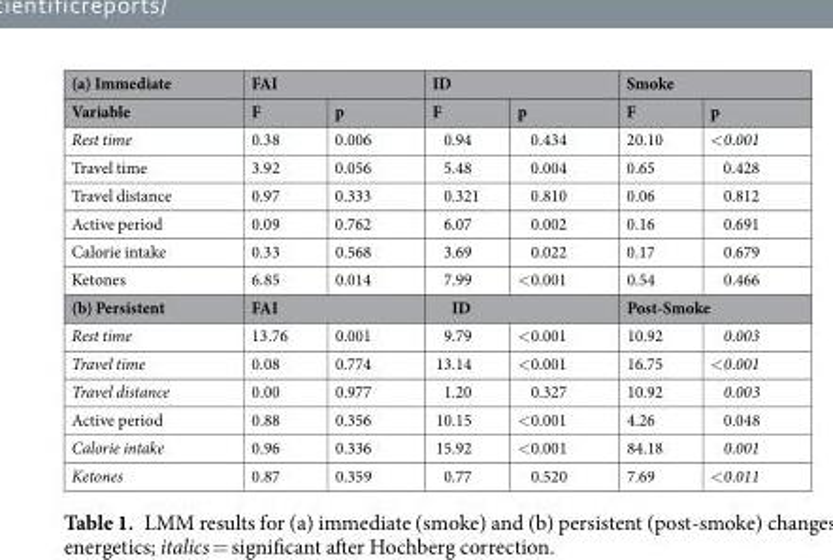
<table><thead><tr><td rowspan="2">(a) Immediate Variable</td><td colspan="2">FAI</td><td colspan="2">ID</td><td colspan="2">Smoke</td></tr><tr><td>F</td><td>p</td><td>F</td><td>p</td><td>F</td><td>p</td></tr></thead><tbody><tr><td>Rest time</td><td>0.38</td><td>0.006</td><td>0.94</td><td>0.434</td><td>20.10</td><td>&lt;0.001</td></tr><tr><td>Travel time</td><td>3.92</td><td>0.056</td><td>5.48</td><td>0.004</td><td>0.65</td><td>0.428</td></tr><tr><td>Travel distance</td><td>0.97</td><td>0.333</td><td>0.321</td><td>0.810</td><td>0.06</td><td>0.812</td></tr><tr><td>Active period</td><td>0.09</td><td>0.762</td><td>6.07</td><td>0.002</td><td>0.16</td><td>0.691</td></tr><tr><td>Calorie intake</td><td>0.33</td><td>0.568</td><td>3.69</td><td>0.022</td><td>0.17</td><td>0.679</td></tr><tr><td>Ketones</td><td>6.85</td><td>0.014</td><td>7.99</td><td>&lt;0.001</td><td>0.54</td><td>0.466</td></tr><tr><td>(b) Persistent</td><td colspan="2">FAI</td><td colspan="2">ID</td><td colspan="2">Post-Smoke</td></tr><tr><td>Rest time</td><td>13.76</td><td>0.001</td><td>9.79</td><td>&lt;0.001</td><td>10.92</td><td>0.003</td></tr><tr><td>Travel time</td><td>0.08</td><td>0.774</td><td>13.14</td><td>&lt;0.001</td><td>16.75</td><td>&lt;0.001</td></tr><tr><td>Travel distance</td><td>0.00</td><td>0.977</td><td>1.20</td><td>0.327</td><td>10.92</td><td>0.003</td></tr><tr><td>Active period</td><td>0.88</td><td>0.356</td><td>10.15</td><td>&lt;0.001</td><td>4.26</td><td>0.048</td></tr><tr><td>Calorie intake</td><td>0.96</td><td>0.336</td><td>15.92</td><td>&lt;0.001</td><td>84.18</td><td>0.001</td></tr><tr><td>Ketones</td><td>0.87</td><td>0.359</td><td>0.77</td><td>0.520</td><td>7.69</td><td>&lt;0.011</td></tr></tbody></table>